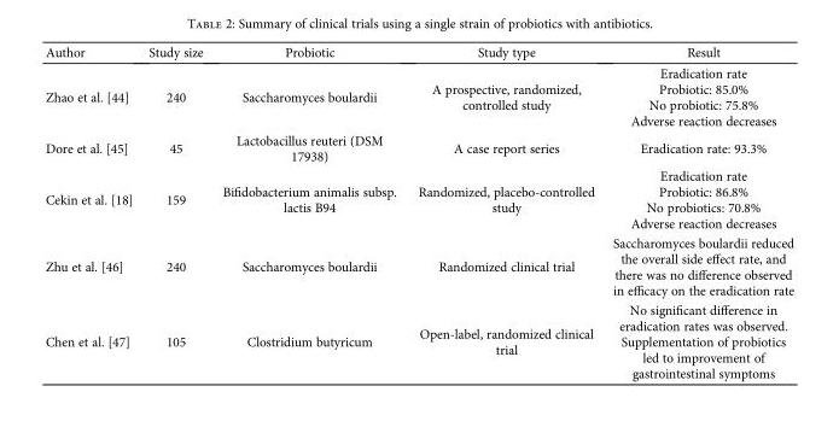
<table><thead><tr><td>Author</td><td>Study size</td><td>Probiotic</td><td>Study type</td><td>Result</td></tr></thead><tbody><tr><td>Zhao et al. [44]</td><td>240</td><td>Saccharomyces boulardii</td><td>A prospective, randomized, controlled study</td><td>Eradication rate Probiotic: 85.0% No probiotic: 75.8% Adverse reaction decreases</td></tr><tr><td>Dore et al. [45]</td><td>45</td><td>Lactobacillus reuteri (DSM 17938)</td><td>A case report series</td><td>Eradication rate: 93.3%</td></tr><tr><td>Cekin et al. [18]</td><td>159</td><td>Bifidobacterium animalis subsp. lactis B94</td><td>Randomized, placebo-controlled study</td><td>Eradication rate Probiotic: 86.8% No probiotics: 70.8% Adverse reaction decreases</td></tr><tr><td>Zhu et al. [46]</td><td>240</td><td>Saccharomyces boulardii</td><td>Randomized clinical trial</td><td>Saccharomyces boulardii reduced the overall side effect rate, and there was no difference observed in efficacy on the eradication rate</td></tr><tr><td>Chen et al. [47]</td><td>105</td><td>Clostridium butyricum</td><td>Open-label, randomized clinical trial</td><td>No significant difference in eradication rates was observed. Supplementation of probiotics led to improvement of gastrointestinal symptoms</td></tr></tbody></table>